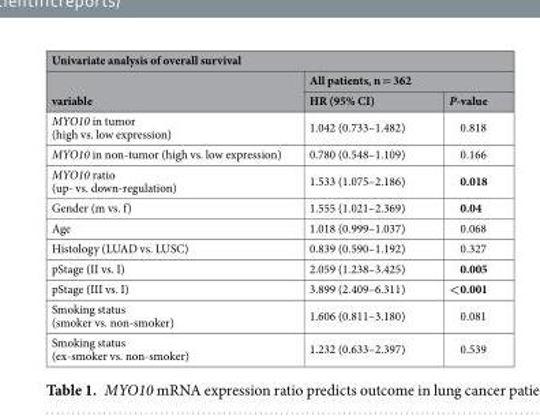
<table><thead><tr><td colspan="3">Univariate analysis of overall survival</td></tr><tr><td rowspan="2">variable</td><td colspan="2">All patients, n = 362</td></tr><tr><td>HR (95% CI)</td><td>P-value</td></tr></thead><tbody><tr><td>MYO10 in tumor (high vs. low expression)</td><td>1.042 (0.733–1.482)</td><td>0.818</td></tr><tr><td>MYO10 in non-tumor (high vs. low expression)</td><td>0.780 (0.548–1.109)</td><td>0.166</td></tr><tr><td>MYO10 ratio (up- vs. down-regulation)</td><td>1.533 (1.075–2.186)</td><td>0.018</td></tr><tr><td>Gender (m vs. f)</td><td>1.555 (1.021–2.369)</td><td>0.04</td></tr><tr><td>Age</td><td>1.018 (0.999–1.037)</td><td>0.068</td></tr><tr><td>Histology (LUAD vs. LUSC)</td><td>0.839 (0.590–1.192)</td><td>0.327</td></tr><tr><td>pStage (II vs. I)</td><td>2.059 (1.238–3.425)</td><td>0.005</td></tr><tr><td>pStage (III vs. I)</td><td>3.899 (2.409–6.311)</td><td>&lt;0.001</td></tr><tr><td>Smoking status (smoker vs. non-smoker)</td><td>1.606 (0.811–3.180)</td><td>0.081</td></tr><tr><td>Smoking status (ex-smoker vs. non-smoker)</td><td>1.232 (0.633–2.397)</td><td>0.539</td></tr></tbody></table>